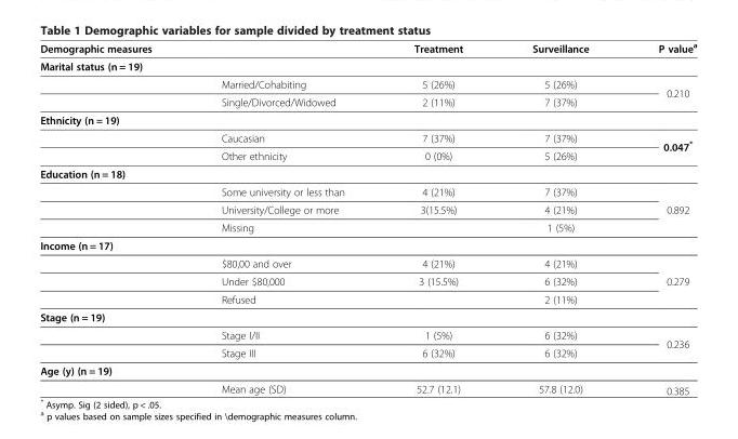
<table><thead><tr><td>Demographic measures</td><td></td><td>Treatment</td><td>Surveillance</td><td>P value<sup>a</sup></td></tr></thead><tbody><tr><td colspan="5">Marital status (n = 19)</td></tr><tr><td></td><td>Married/Cohabiting</td><td>5 (26%)</td><td>5 (26%)</td><td rowspan="2">0.210</td></tr><tr><td></td><td>Single/Divorced/Widowed</td><td>2 (11%)</td><td>7 (37%)</td></tr><tr><td colspan="5">Ethnicity (n = 19)</td></tr><tr><td></td><td>Caucasian</td><td>7 (37%)</td><td>7 (37%)</td><td rowspan="2">0.047*</td></tr><tr><td></td><td>Other ethnicity</td><td>0 (0%)</td><td>5 (26%)</td></tr><tr><td colspan="5">Education (n = 18)</td></tr><tr><td></td><td>Some university or less than</td><td>4 (21%)</td><td>7 (37%)</td><td rowspan="3">0.892</td></tr><tr><td></td><td>University/College or more</td><td>3(15.5%)</td><td>4 (21%)</td></tr><tr><td></td><td>Missing</td><td></td><td>1 (5%)</td></tr><tr><td colspan="5">Income (n = 17)</td></tr><tr><td></td><td>$80,00 and over</td><td>4 (21%)</td><td>4 (21%)</td><td rowspan="3">0.279</td></tr><tr><td></td><td>Under $80,000</td><td>3 (15.5%)</td><td>6 (32%)</td></tr><tr><td></td><td>Refused</td><td></td><td>2 (11%)</td></tr><tr><td colspan="5">Stage (n = 19)</td></tr><tr><td></td><td>Stage I/II</td><td>1 (5%)</td><td>6 (32%)</td><td rowspan="2">0.236</td></tr><tr><td></td><td>Stage III</td><td>6 (32%)</td><td>6 (32%)</td></tr><tr><td colspan="5">Age (y) (n = 19)</td></tr><tr><td></td><td>Mean age (SD)</td><td>52.7 (12.1)</td><td>57.8 (12.0)</td><td>0.385</td></tr></tbody></table>